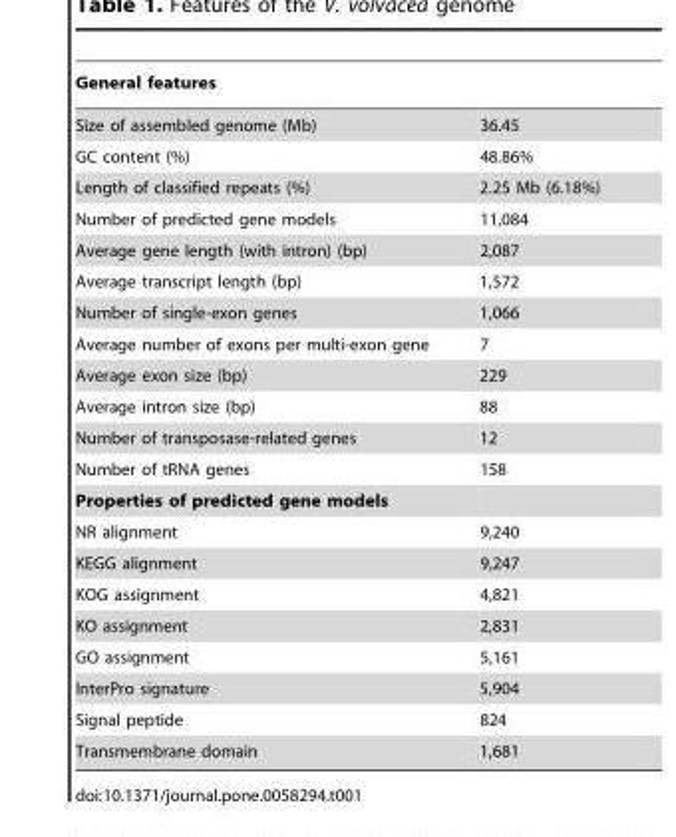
<table><thead><tr><td>General features</td><td></td></tr></thead><tbody><tr><td>Size of assembled genome (Mb)</td><td>36.45</td></tr><tr><td>GC content (%)</td><td>48.86%</td></tr><tr><td>Length of classified repeats (%)</td><td>2.25 Mb (6.18%)</td></tr><tr><td>Number of predicted gene models</td><td>11,084</td></tr><tr><td>Average gene length (with intron) (bp)</td><td>2,087</td></tr><tr><td>Average transcript length (bp)</td><td>1,572</td></tr><tr><td>Number of single-exon genes</td><td>1,066</td></tr><tr><td>Average number of exons per multi-exon gene</td><td>7</td></tr><tr><td>Average exon size (bp)</td><td>229</td></tr><tr><td>Average intron size (bp)</td><td>88</td></tr><tr><td>Number of transposase-related genes</td><td>12</td></tr><tr><td>Number of tRNA genes</td><td>158</td></tr><tr><td colspan="2">Properties of predicted gene models</td></tr><tr><td>NR alignment</td><td>9,240</td></tr><tr><td>KEGG alignment</td><td>9,247</td></tr><tr><td>KOG assignment</td><td>4,821</td></tr><tr><td>KO assignment</td><td>2,831</td></tr><tr><td>GO assignment</td><td>5,161</td></tr><tr><td>InterPro signature</td><td>5,904</td></tr><tr><td>Signal peptide</td><td>824</td></tr><tr><td>Transmembrane domain</td><td>1,681</td></tr></tbody></table>